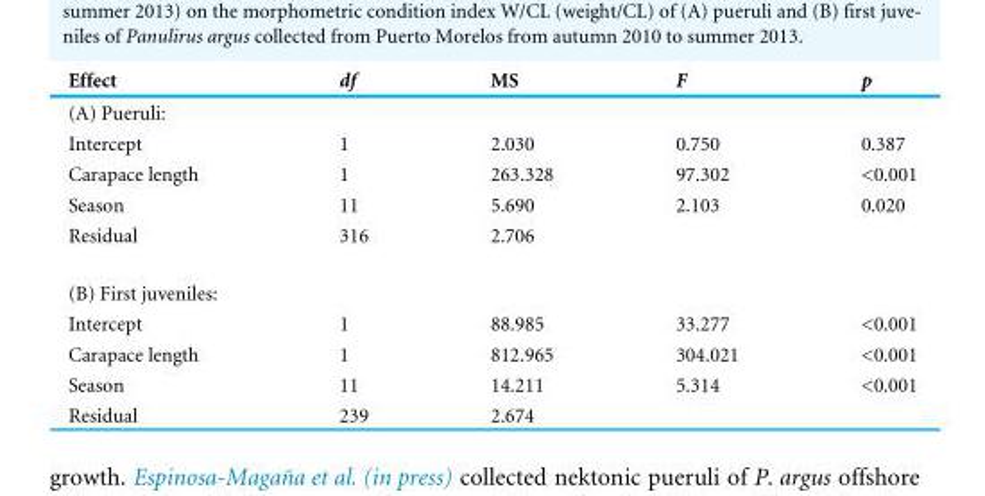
<table><thead><tr><td>Effect</td><td>df</td><td>MS</td><td>F</td><td>p</td></tr></thead><tbody><tr><td colspan="5">(A) Pueruli:</td></tr><tr><td>Intercept</td><td>1</td><td>2.030</td><td>0.750</td><td>0.387</td></tr><tr><td>Carapace length</td><td>1</td><td>263.328</td><td>97.302</td><td>&lt;0.001</td></tr><tr><td>Season</td><td>11</td><td>5.690</td><td>2.103</td><td>0.020</td></tr><tr><td>Residual</td><td>316</td><td>2.706</td><td></td><td></td></tr><tr><td colspan="5">(B) First juveniles:</td></tr><tr><td>Intercept</td><td>1</td><td>88.985</td><td>33.277</td><td>&lt;0.001</td></tr><tr><td>Carapace length</td><td>1</td><td>812.965</td><td>304.021</td><td>&lt;0.001</td></tr><tr><td>Season</td><td>11</td><td>14.211</td><td>5.314</td><td>&lt;0.001</td></tr><tr><td>Residual</td><td>239</td><td>2.674</td><td></td><td></td></tr></tbody></table>